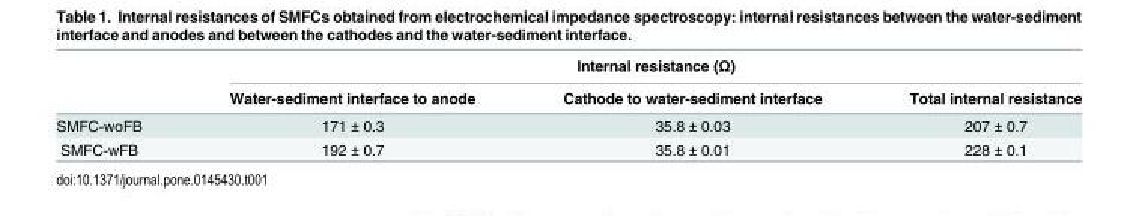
<table><thead><tr><td rowspan="2"></td><td colspan="3">Internal resistance (Ω)</td></tr><tr><td>Water-sediment interface to anode</td><td>Cathode to water-sediment interface</td><td>Total internal resistance</td></tr></thead><tbody><tr><td>SMFC-woFB</td><td>171 ± 0.3</td><td>35.8 ± 0.03</td><td>207 ± 0.7</td></tr><tr><td>SMFC-wFB</td><td>192 ± 0.7</td><td>35.8 ± 0.01</td><td>228 ± 0.1</td></tr></tbody></table>